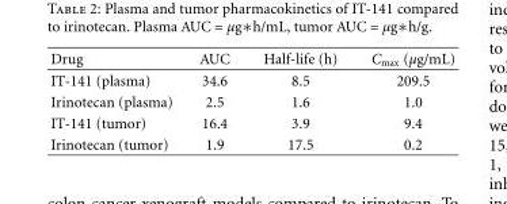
<table><thead><tr><td>Drug</td><td>AUC</td><td>Half-life (h)</td><td>C<sub>max</sub> (μg/mL)</td></tr></thead><tbody><tr><td>IT-141 (plasma)</td><td>34.6</td><td>8.5</td><td>209.5</td></tr><tr><td>Irinotecan (plasma)</td><td>2.5</td><td>1.6</td><td>1.0</td></tr><tr><td>IT-141 (tumor)</td><td>16.4</td><td>3.9</td><td>9.4</td></tr><tr><td>Irinotecan (tumor)</td><td>1.9</td><td>17.5</td><td>0.2</td></tr></tbody></table>